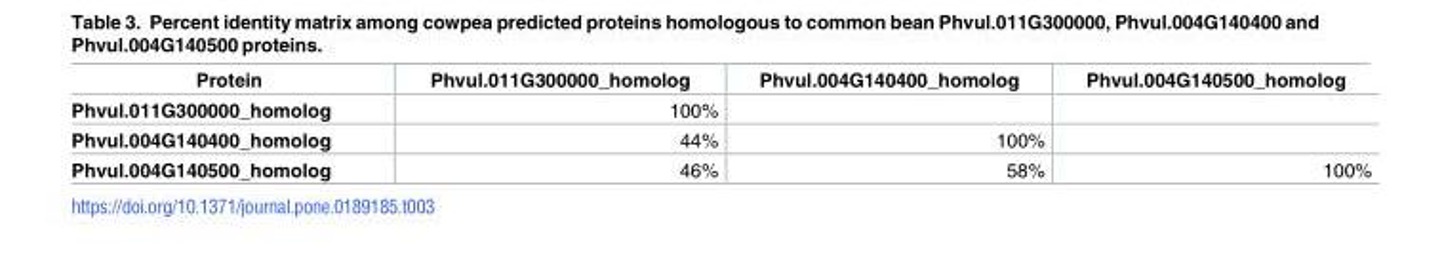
<table><thead><tr><td>Protein</td><td>Phvul.011G300000_homolog</td><td>Phvul.004G140400_homolog</td><td>Phvul.004G140500_homolog</td></tr></thead><tbody><tr><td>Phvul.011G300000_homolog</td><td>100%</td><td></td><td></td></tr><tr><td>Phvul.004G140400_homolog</td><td>44%</td><td>100%</td><td></td></tr><tr><td>Phvul.004G140500_homolog</td><td>46%</td><td>58%</td><td>100%</td></tr></tbody></table>